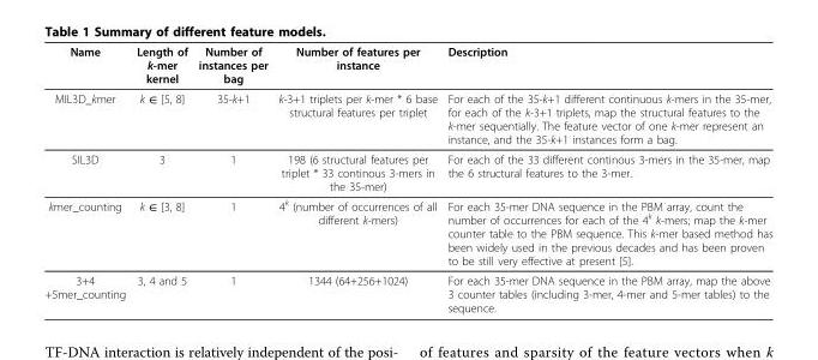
<table><thead><tr><td>Name</td><td>Length of k-mer kernel</td><td>Number of instances per bag</td><td>Number of features per instance</td><td>Description</td></tr></thead><tbody><tr><td>MIL3D_kmer</td><td>k ∈ [5, 8]</td><td>35-k+1</td><td>k-3+1 triplets per k-mer * 6 base structural features per triplet</td><td>For each of the 35-k+1 different continuous k-mers in the 35-mer, for each of the k-3+1 triplets, map the structural features to the k-mer sequentially. The feature vector of one k-mer represent an instance, and the 35-k+1 instances form a bag.</td></tr><tr><td>SIL3D</td><td>3</td><td>1</td><td>198 (6 structural features per triplet * 33 continous 3-mers in the 35-mer)</td><td>For each of the 33 different continous 3-mers in the 35-mer, map the 6 structural features to the 3-mer.</td></tr><tr><td>kmer_counting</td><td>k ∈ [3, 8]</td><td>1</td><td>4<sup>k</sup> (number of occurrences of all different k-mers)</td><td>For each 35-mer DNA sequence in the PBM array, count the number of occurrences for each of the 4<sup>k</sup> k-mers; map the k-mer counter table to the PBM sequence. This k-mer based method has been widely used in the previous decades and has been proven to be still very effective at present [5].</td></tr><tr><td>3+4 +5mer_counting</td><td>3, 4 and 5</td><td>1</td><td>1344 (64+256+1024)</td><td>For each 35-mer DNA sequence in the PBM array, map the above 3 counter tables (including 3-mer, 4-mer and 5-mer tables) to the sequence.</td></tr></tbody></table>